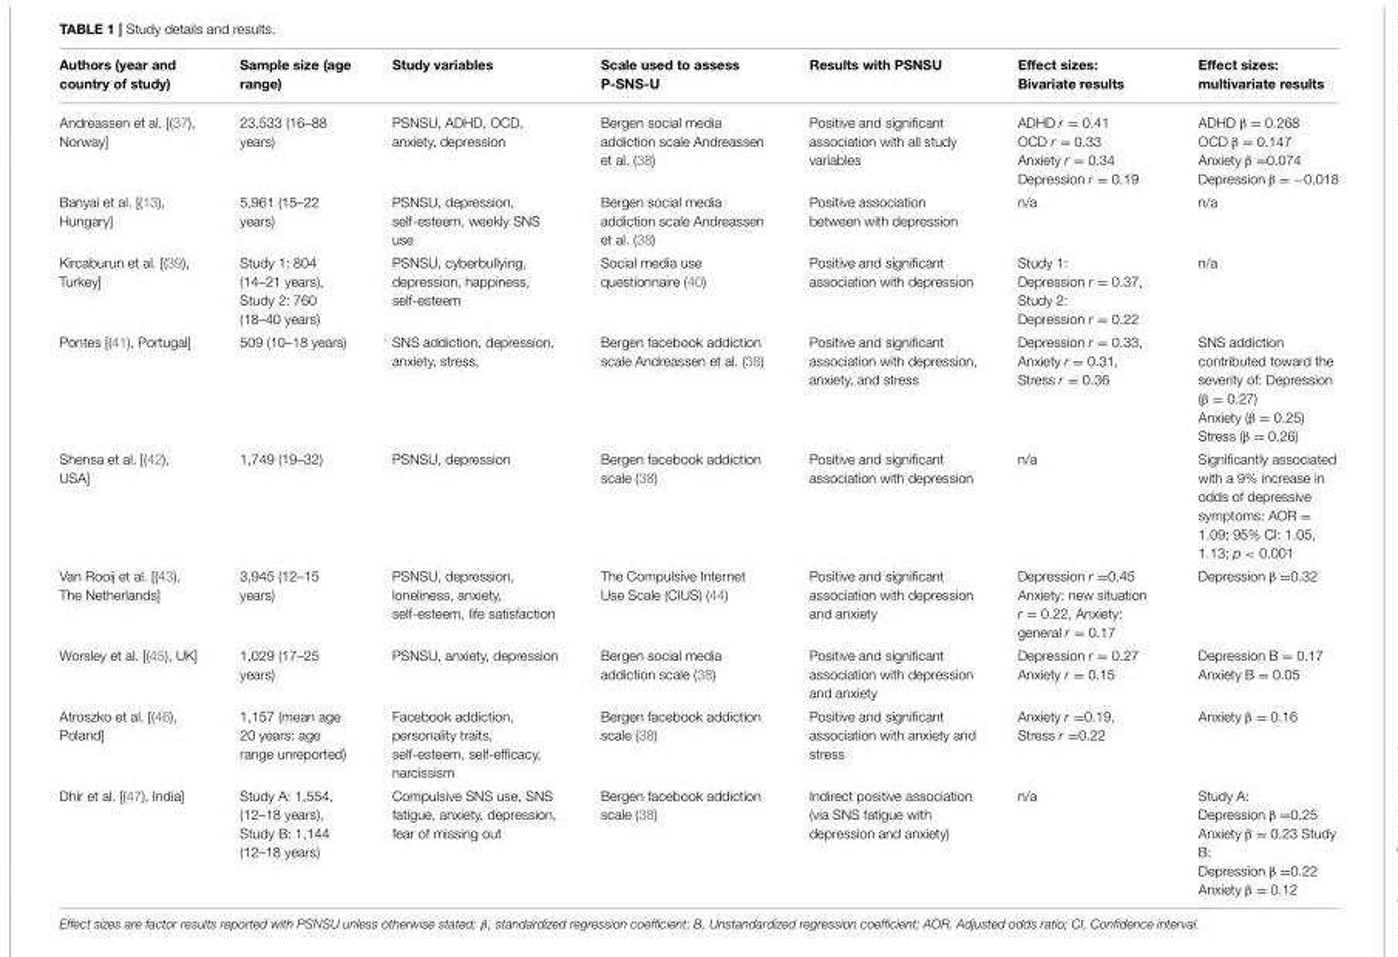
<table><thead><tr><td>Authors (year and country of study)</td><td>Sample size (age range)</td><td>Study variables</td><td>Scale used to assess P-SNS-U</td><td>Results with PSNSU</td><td>Effect sizes: Bivariate results</td><td>Effect sizes: multivariate results</td></tr></thead><tbody><tr><td>Andreassen et al. [(37), Norway]</td><td>23,533 (16–88 years)</td><td>PSNSU, ADHD, OCD, anxiety, depression</td><td>Bergen social media addiction scale Andreassen et al. (38)</td><td>Positive and significant association with all study variables</td><td>ADHD r = 0.41 OCD r = 0.33 Anxiety r = 0.34 Depression r = 0.19</td><td>ADHD β = 0.268 OCD β = 0.147 Anxiety β =0.074 Depression β = −0.018</td></tr><tr><td>Banyai et al. [(13), Hungary]</td><td>5,961 (15–22 years)</td><td>PSNSU, depression, self-esteem, weekly SNS use</td><td>Bergen social media addiction scale Andreassen et al. (38)</td><td>Positive association between with depression</td><td>n/a</td><td>n/a</td></tr><tr><td>Kircaburun et al. [(39), Turkey]</td><td>Study 1: 804 (14–21 years), Study 2: 760 (18–40 years)</td><td>PSNSU, cyberbullying, depression, happiness, self-esteem</td><td>Social media use questionnaire (40)</td><td>Positive and significant association with depression</td><td>Study 1: Depression r = 0.37, Study 2: Depression r = 0.22</td><td>n/a</td></tr><tr><td>Pontes [(41), Portugal]</td><td>509 (10–18 years)</td><td>SNS addiction, depression, anxiety, stress,</td><td>Bergen facebook addiction scale Andreassen et al. (38)</td><td>Positive and significant association with depression, anxiety, and stress</td><td>Depression r = 0.33, Anxiety r = 0.31, Stress r = 0.36</td><td>SNS addiction contributed toward the severity of: Depression (β = 0.27) Anxiety (β = 0.25) Stress (β = 0.26)</td></tr><tr><td>Shensa et al. [(42), USA]</td><td>1,749 (19–32)</td><td>PSNSU, depression</td><td>Bergen facebook addiction scale (38)</td><td>Positive and significant association with depression</td><td>n/a</td><td>Significantly associated with a 9% increase in odds of depressive symptoms: AOR = 1.09; 95% CI: 1.05, 1.13; p &lt; 0.001</td></tr><tr><td>Van Rooij et al. [(43), The Netherlands]</td><td>3,945 (12–15 years)</td><td>PSNSU, depression, loneliness, anxiety, self-esteem, life satisfaction</td><td>The Compulsive Internet Use Scale (CIUS) (44)</td><td>Positive and significant association with depression and anxiety</td><td>Depression r =0.45 Anxiety: new situation r = 0.22, Anxiety: general r = 0.17</td><td>Depression β =0.32</td></tr><tr><td>Worsley et al. [(45), UK]</td><td>1,029 (17–25 years)</td><td>PSNSU, anxiety, depression</td><td>Bergen social media addiction scale (38)</td><td>Positive and significant association with depression and anxiety</td><td>Depression r = 0.27 Anxiety r = 0.15</td><td>Depression B = 0.17 Anxiety B = 0.05</td></tr><tr><td>Atroszko et al. [(46), Poland]</td><td>1,157 (mean age 20 years: age range unreported)</td><td>Facebook addiction, personality traits, self-esteem, self-efficacy, narcissism</td><td>Bergen facebook addiction scale (38)</td><td>Positive and significant association with anxiety and stress</td><td>Anxiety r =0.19, Stress r =0.22</td><td>Anxiety β = 0.16</td></tr><tr><td>Dhir et al. [(47), India]</td><td>Study A: 1,554, (12–18 years), Study B: 1,144 (12–18 years)</td><td>Compulsive SNS use, SNS fatigue, anxiety, depression, fear of missing out</td><td>Bergen facebook addiction scale (38)</td><td>Indirect positive association (via SNS fatigue with depression and anxiety)</td><td>n/a</td><td>Study A: Depression β =0.25 Anxiety β = 0.23 Study B: Depression β =0.22 Anxiety β = 0.12</td></tr></tbody></table>